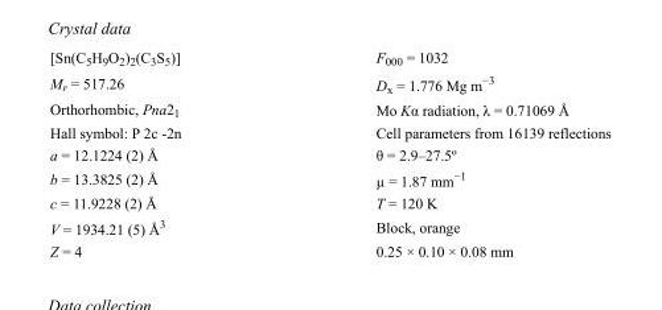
<table><tbody><tr><td>[Sn(C<sub>5</sub>H<sub>9</sub>O<sub>2</sub>)<sub>2</sub>(C<sub>3</sub>S<sub>5</sub>)]</td><td>F000 = 1032</td></tr><tr><td>M<sub>r</sub> = 517.26</td><td>D<sub>x</sub> = 1.776 Mg m<sup>−3</sup></td></tr><tr><td>Orthorhombic, Pna2<sub>1</sub></td><td>Mo Kα radiation, λ = 0.71069 Å</td></tr><tr><td>Hall symbol: P 2c -2n</td><td>Cell parameters from 16139 reflections</td></tr><tr><td>a = 12.1224 (2) Å</td><td>θ = 2.9–27.5º</td></tr><tr><td>b = 13.3825 (2) Å</td><td>µ = 1.87 mm<sup>−1</sup></td></tr><tr><td>c = 11.9228 (2) Å</td><td>T = 120 K</td></tr><tr><td>V = 1934.21 (5) Å<sup>3</sup></td><td>Block, orange</td></tr><tr><td>Z = 4</td><td>0.25 × 0.10 × 0.08 mm</td></tr></tbody></table>